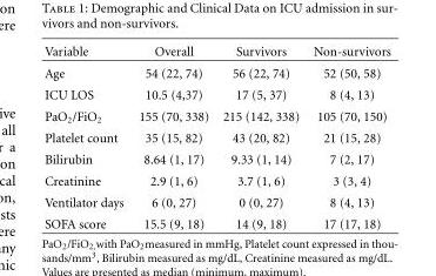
<table><thead><tr><td>Variable</td><td>Overall</td><td>Survivors</td><td>Non-survivors</td></tr></thead><tbody><tr><td>Age</td><td>54 (22, 74)</td><td>56 (22, 74)</td><td>52 (50, 58)</td></tr><tr><td>ICU LOS</td><td>10.5 (4,37)</td><td>17 (5, 37)</td><td>8 (4, 13)</td></tr><tr><td>PaO<sub>2</sub>/FiO<sub>2</sub></td><td>155 (70, 338)</td><td>215 (142, 338)</td><td>105 (70, 150)</td></tr><tr><td>Platelet count</td><td>35 (15, 82)</td><td>43 (20, 82)</td><td>21 (15, 28)</td></tr><tr><td>Bilirubin</td><td>8.64 (1, 17)</td><td>9.33 (1, 14)</td><td>7 (2, 17)</td></tr><tr><td>Creatinine</td><td>2.9 (1, 6)</td><td>3.7 (1, 6)</td><td>3 (3, 4)</td></tr><tr><td>Ventilator days</td><td>6 (0, 27)</td><td>0 (0, 27)</td><td>8 (4, 13)</td></tr><tr><td>SOFA score</td><td>15.5 (9, 18)</td><td>14 (9, 18)</td><td>17 (17, 18)</td></tr></tbody></table>